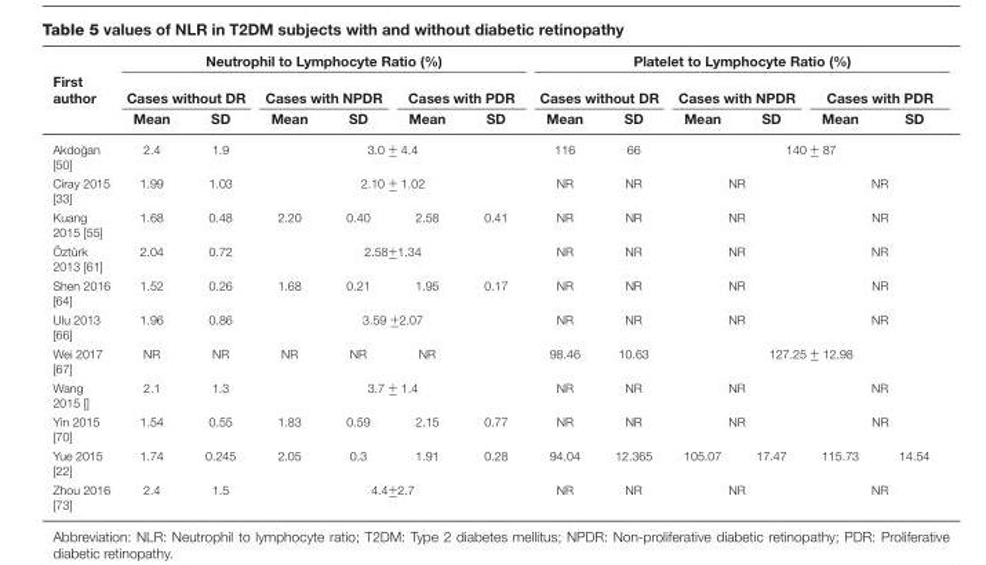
<table><thead><tr><td rowspan="3">First author</td><td colspan="6">Neutrophil to Lymphocyte Ratio (%)</td><td colspan="6">Platelet to Lymphocyte Ratio (%)</td></tr><tr><td colspan="2">Cases without DR</td><td colspan="2">Cases with NPDR</td><td colspan="2">Cases with PDR</td><td colspan="2">Cases without DR</td><td colspan="2">Cases with NPDR</td><td colspan="2">Cases with PDR</td></tr><tr><td>Mean</td><td>SD</td><td>Mean</td><td>SD</td><td>Mean</td><td>SD</td><td>Mean</td><td>SD</td><td>Mean</td><td>SD</td><td>Mean</td><td>SD</td></tr></thead><tbody><tr><td>Akdo ˘gan [50]</td><td>2.4</td><td>1.9</td><td colspan="4">3.0 +− 4.4</td><td>116</td><td>66</td><td colspan="4">140 +− 87</td></tr><tr><td>Ciray 2015 [33]</td><td>1.99</td><td>1.03</td><td colspan="4">2.10 +− 1.02</td><td>NR</td><td>NR</td><td colspan="2">NR</td><td colspan="2">NR</td></tr><tr><td>Kuang 2015 [55]</td><td>1.68</td><td>0.48</td><td>2.20</td><td>0.40</td><td>2.58</td><td>0.41</td><td>NR</td><td>NR</td><td colspan="2">NR</td><td colspan="2">NR</td></tr><tr><td>¨Ozt ¨urk 2013 [61]</td><td>2.04</td><td>0.72</td><td colspan="4">2.58+−1.34</td><td>NR</td><td>NR</td><td colspan="2">NR</td><td colspan="2">NR</td></tr><tr><td>Shen 2016 [64]</td><td>1.52</td><td>0.26</td><td>1.68</td><td>0.21</td><td>1.95</td><td>0.17</td><td>NR</td><td>NR</td><td colspan="2">NR</td><td colspan="2">NR</td></tr><tr><td>Ulu 2013 [66]</td><td>1.96</td><td>0.86</td><td colspan="4">3.59 +−2.07</td><td>NR</td><td>NR</td><td colspan="2">NR</td><td colspan="2">NR</td></tr><tr><td>Wei 2017 [67]</td><td>NR</td><td>NR</td><td>NR</td><td>NR</td><td>NR</td><td></td><td>98.46</td><td>10.63</td><td colspan="4">127.25 +− 12.98</td></tr><tr><td>Wang 2015 []</td><td>2.1</td><td>1.3</td><td colspan="4">3.7 +− 1.4</td><td>NR</td><td>NR</td><td colspan="2">NR</td><td colspan="2">NR</td></tr><tr><td>Yin 2015 [70]</td><td>1.54</td><td>0.55</td><td>1.83</td><td>0.59</td><td>2.15</td><td>0.77</td><td>NR</td><td>NR</td><td colspan="2">NR</td><td colspan="2">NR</td></tr><tr><td>Yue 2015 [22]</td><td>1.74</td><td>0.245</td><td>2.05</td><td>0.3</td><td>1.91</td><td>0.28</td><td>94.04</td><td>12.365</td><td>105.07</td><td>17.47</td><td>115.73</td><td>14.54</td></tr><tr><td>Zhou 2016 [73]</td><td>2.4</td><td>1.5</td><td colspan="4">4.4+−2.7</td><td>NR</td><td>NR</td><td colspan="2">NR</td><td colspan="2">NR</td></tr></tbody></table>